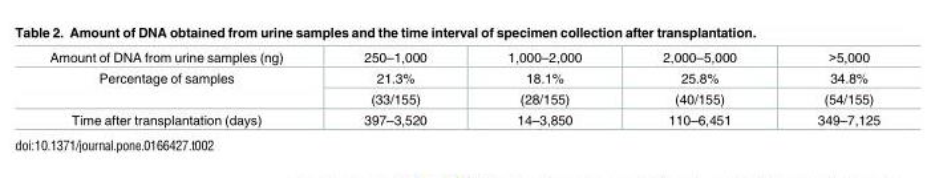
<table><tbody><tr><td>Amount of DNA from urine samples (ng)</td><td>250–1,000</td><td>1,000–2,000</td><td>2,000–5,000</td><td>&gt;5,000</td></tr><tr><td rowspan="2">Percentage of samples</td><td>21.3%</td><td>18.1%</td><td>25.8%</td><td>34.8%</td></tr><tr><td>(33/155)</td><td>(28/155)</td><td>(40/155)</td><td>(54/155)</td></tr><tr><td>Time after transplantation (days)</td><td>397–3,520</td><td>14–3,850</td><td>110–6,451</td><td>349–7,125</td></tr></tbody></table>